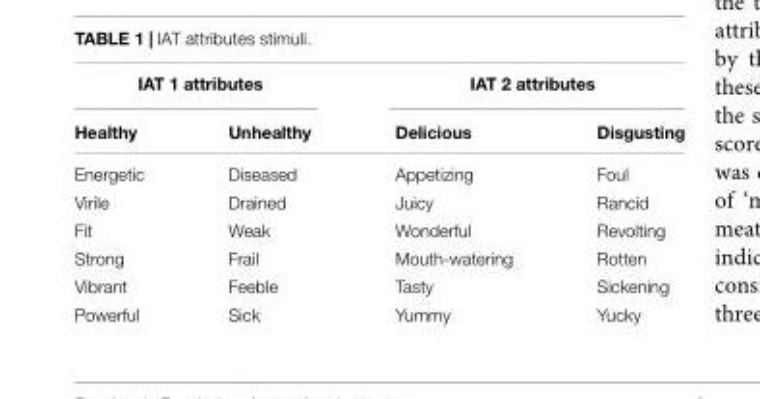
<table><thead><tr><td colspan="2">IAT 1 attributes</td><td colspan="2">IAT 2 attributes</td></tr><tr><td>Healthy</td><td>Unhealthy</td><td>Delicious</td><td>Disgusting</td></tr></thead><tbody><tr><td>Energetic</td><td>Diseased</td><td>Appetizing</td><td>Foul</td></tr><tr><td>Virile</td><td>Drained</td><td>Juicy</td><td>Rancid</td></tr><tr><td>Fit</td><td>Weak</td><td>Wonderful</td><td>Revolting</td></tr><tr><td>Strong</td><td>Frail</td><td>Mouth-watering</td><td>Rotten</td></tr><tr><td>Vibrant</td><td>Feeble</td><td>Tasty</td><td>Sickening</td></tr><tr><td>Powerful</td><td>Sick</td><td>Yummy</td><td>Yucky</td></tr></tbody></table>